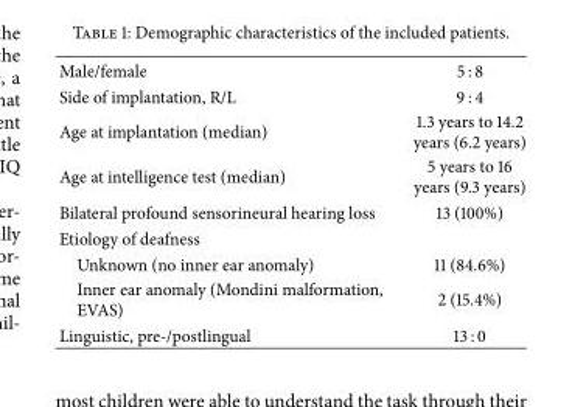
<table><tbody><tr><td>Male/female</td><td>5 : 8</td></tr><tr><td>Side of implantation, R/L</td><td>9 : 4</td></tr><tr><td>Age at implantation (median)</td><td>1.3 years to 14.2 years (6.2 years)</td></tr><tr><td>Age at intelligence test (median)</td><td>5 years to 16 years (9.3 years)</td></tr><tr><td>Bilateral profound sensorineural hearing loss</td><td>13 (100%)</td></tr><tr><td colspan="2">Etiology of deafness</td></tr><tr><td>Unknown (no inner ear anomaly)</td><td>11 (84.6%)</td></tr><tr><td>Inner ear anomaly (Mondini malformation, EVAS)</td><td>2 (15.4%)</td></tr><tr><td>Linguistic, pre-/postlingual</td><td>13 : 0</td></tr></tbody></table>